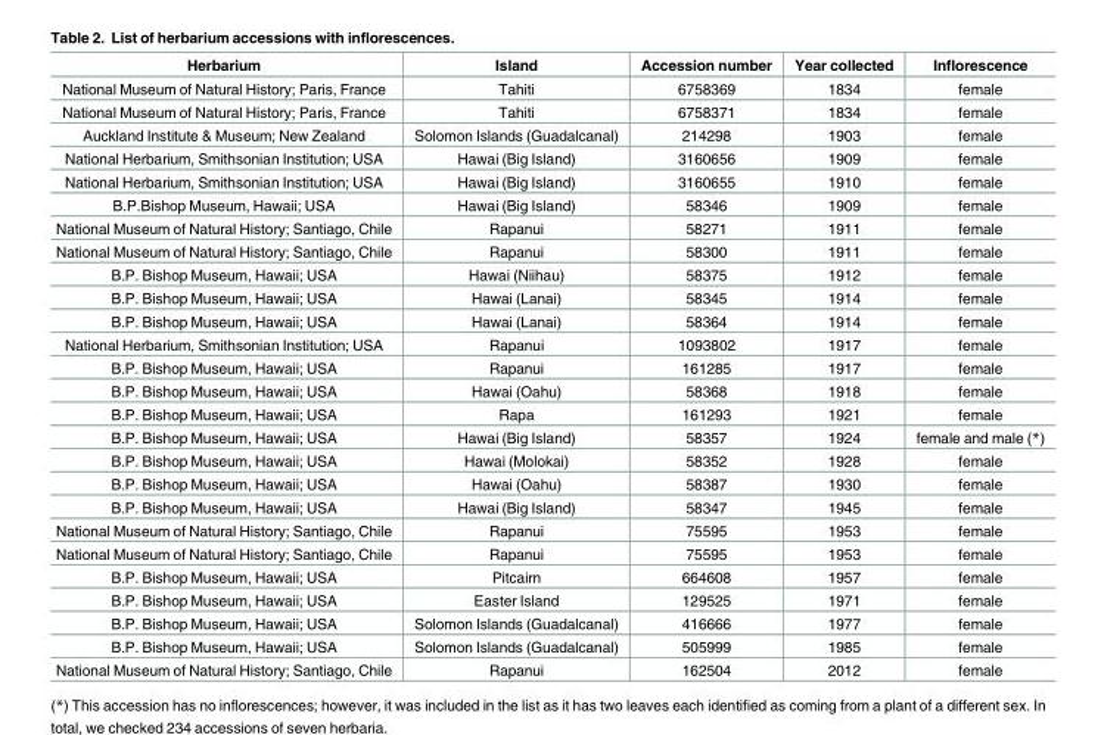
<table><thead><tr><td>Herbarium</td><td>Island</td><td>Accession number</td><td>Year collected</td><td>Inflorescence</td></tr></thead><tbody><tr><td>National Museum of Natural History; Paris, France</td><td>Tahiti</td><td>6758369</td><td>1834</td><td>female</td></tr><tr><td>National Museum of Natural History; Paris, France</td><td>Tahiti</td><td>6758371</td><td>1834</td><td>female</td></tr><tr><td>Auckland Institute &amp; Museum; New Zealand</td><td>Solomon Islands (Guadalcanal)</td><td>214298</td><td>1903</td><td>female</td></tr><tr><td>National Herbarium, Smithsonian Institution; USA</td><td>Hawai (Big Island)</td><td>3160656</td><td>1909</td><td>female</td></tr><tr><td>National Herbarium, Smithsonian Institution; USA</td><td>Hawai (Big Island)</td><td>3160655</td><td>1910</td><td>female</td></tr><tr><td>B.P.Bishop Museum, Hawaii; USA</td><td>Hawai (Big Island)</td><td>58346</td><td>1909</td><td>female</td></tr><tr><td>National Museum of Natural History; Santiago, Chile</td><td>Rapanui</td><td>58271</td><td>1911</td><td>female</td></tr><tr><td>National Museum of Natural History; Santiago, Chile</td><td>Rapanui</td><td>58300</td><td>1911</td><td>female</td></tr><tr><td>B.P. Bishop Museum, Hawaii; USA</td><td>Hawai (Niihau)</td><td>58375</td><td>1912</td><td>female</td></tr><tr><td>B.P. Bishop Museum, Hawaii; USA</td><td>Hawai (Lanai)</td><td>58345</td><td>1914</td><td>female</td></tr><tr><td>B.P. Bishop Museum, Hawaii; USA</td><td>Hawai (Lanai)</td><td>58364</td><td>1914</td><td>female</td></tr><tr><td>National Herbarium, Smithsonian Institution; USA</td><td>Rapanui</td><td>1093802</td><td>1917</td><td>female</td></tr><tr><td>B.P. Bishop Museum, Hawaii; USA</td><td>Rapanui</td><td>161285</td><td>1917</td><td>female</td></tr><tr><td>B.P. Bishop Museum, Hawaii; USA</td><td>Hawai (Oahu)</td><td>58368</td><td>1918</td><td>female</td></tr><tr><td>B.P. Bishop Museum, Hawaii; USA</td><td>Rapa</td><td>161293</td><td>1921</td><td>female</td></tr><tr><td>B.P. Bishop Museum, Hawaii; USA</td><td>Hawai (Big Island)</td><td>58357</td><td>1924</td><td>female and male (*)</td></tr><tr><td>B.P. Bishop Museum, Hawaii; USA</td><td>Hawai (Molokai)</td><td>58352</td><td>1928</td><td>female</td></tr><tr><td>B.P. Bishop Museum, Hawaii; USA</td><td>Hawai (Oahu)</td><td>58387</td><td>1930</td><td>female</td></tr><tr><td>B.P. Bishop Museum, Hawaii; USA</td><td>Hawai (Big Island)</td><td>58347</td><td>1945</td><td>female</td></tr><tr><td>National Museum of Natural History; Santiago, Chile</td><td>Rapanui</td><td>75595</td><td>1953</td><td>female</td></tr><tr><td>National Museum of Natural History; Santiago, Chile</td><td>Rapanui</td><td>75595</td><td>1953</td><td>female</td></tr><tr><td>B.P. Bishop Museum, Hawaii; USA</td><td>Pitcairn</td><td>664608</td><td>1957</td><td>female</td></tr><tr><td>B.P. Bishop Museum, Hawaii; USA</td><td>Easter Island</td><td>129525</td><td>1971</td><td>female</td></tr><tr><td>B.P. Bishop Museum, Hawaii; USA</td><td>Solomon Islands (Guadalcanal)</td><td>416666</td><td>1977</td><td>female</td></tr><tr><td>B.P. Bishop Museum, Hawaii; USA</td><td>Solomon Islands (Guadalcanal)</td><td>505999</td><td>1985</td><td>female</td></tr><tr><td>National Museum of Natural History; Santiago, Chile</td><td>Rapanui</td><td>162504</td><td>2012</td><td>female</td></tr></tbody></table>